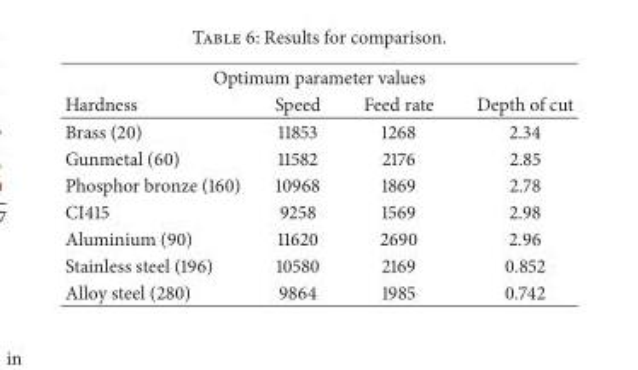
<table><thead><tr><td colspan="4">Optimum parameter values</td></tr><tr><td>Hardness</td><td>Speed</td><td>Feed rate</td><td>Depth of cut</td></tr></thead><tbody><tr><td>Brass (20)</td><td>11853</td><td>1268</td><td>2.34</td></tr><tr><td>Gunmetal (60)</td><td>11582</td><td>2176</td><td>2.85</td></tr><tr><td>Phosphor bronze (160)</td><td>10968</td><td>1869</td><td>2.78</td></tr><tr><td>CI415</td><td>9258</td><td>1569</td><td>2.98</td></tr><tr><td>Aluminium (90)</td><td>11620</td><td>2690</td><td>2.96</td></tr><tr><td>Stainless steel (196)</td><td>10580</td><td>2169</td><td>0.852</td></tr><tr><td>Alloy steel (280)</td><td>9864</td><td>1985</td><td>0.742</td></tr></tbody></table>